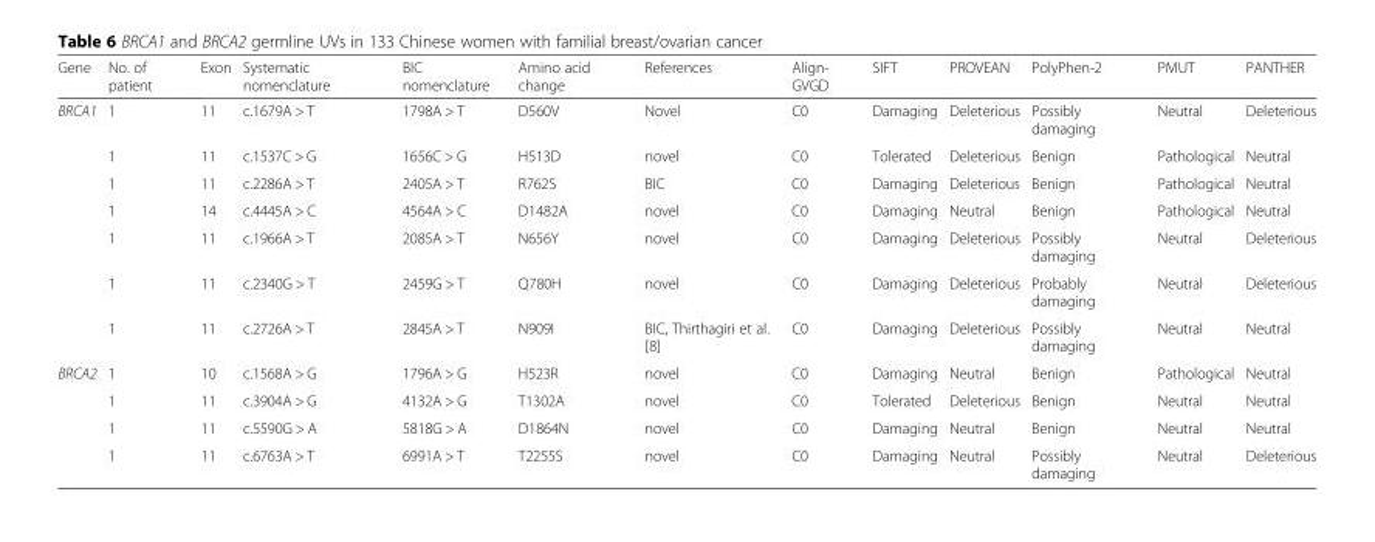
<table><thead><tr><td>Gene</td><td>No. of patient</td><td>Exon</td><td>Systematic nomenclature</td><td>BIC nomenclature</td><td>Amino acid change</td><td>References</td><td>Align- GVGD</td><td>SIFT</td><td>PROVEAN</td><td>PolyPhen-2</td><td>PMUT</td><td>PANTHER</td></tr></thead><tbody><tr><td rowspan="7">BRCA1</td><td>1</td><td>11</td><td>c.1679A &gt; T</td><td>1798A &gt; T</td><td>D560V</td><td>Novel</td><td>C0</td><td>Damaging</td><td>Deleterious</td><td>Possibly damaging</td><td>Neutral</td><td>Deleterious</td></tr><tr><td>1</td><td>11</td><td>c.1537C &gt; G</td><td>1656C &gt; G</td><td>H513D</td><td>novel</td><td>C0</td><td>Tolerated</td><td>Deleterious</td><td>Benign</td><td>Pathological</td><td>Neutral</td></tr><tr><td>1</td><td>11</td><td>c.2286A &gt; T</td><td>2405A &gt; T</td><td>R762S</td><td>BIC</td><td>C0</td><td>Damaging</td><td>Deleterious</td><td>Benign</td><td>Pathological</td><td>Neutral</td></tr><tr><td>1</td><td>14</td><td>c.4445A &gt; C</td><td>4564A &gt; C</td><td>D1482A</td><td>novel</td><td>C0</td><td>Damaging</td><td>Neutral</td><td>Benign</td><td>Pathological</td><td>Neutral</td></tr><tr><td>1</td><td>11</td><td>c.1966A &gt; T</td><td>2085A &gt; T</td><td>N656Y</td><td>novel</td><td>C0</td><td>Damaging</td><td>Deleterious</td><td>Possibly damaging</td><td>Neutral</td><td>Deleterious</td></tr><tr><td>1</td><td>11</td><td>c.2340G &gt; T</td><td>2459G &gt; T</td><td>Q780H</td><td>novel</td><td>C0</td><td>Damaging</td><td>Deleterious</td><td>Probably damaging</td><td>Neutral</td><td>Deleterious</td></tr><tr><td>1</td><td>11</td><td>c.2726A &gt; T</td><td>2845A &gt; T</td><td>N909I</td><td>BIC, Thirthagiri et al. [8]</td><td>C0</td><td>Damaging</td><td>Deleterious</td><td>Possibly damaging</td><td>Neutral</td><td>Neutral</td></tr><tr><td rowspan="4">BRCA2</td><td>1</td><td>10</td><td>c.1568A &gt; G</td><td>1796A &gt; G</td><td>H523R</td><td>novel</td><td>C0</td><td>Damaging</td><td>Neutral</td><td>Benign</td><td>Pathological</td><td>Neutral</td></tr><tr><td>1</td><td>11</td><td>c.3904A &gt; G</td><td>4132A &gt; G</td><td>T1302A</td><td>novel</td><td>C0</td><td>Tolerated</td><td>Deleterious</td><td>Benign</td><td>Neutral</td><td>Neutral</td></tr><tr><td>1</td><td>11</td><td>c.5590G &gt; A</td><td>5818G &gt; A</td><td>D1864N</td><td>novel</td><td>C0</td><td>Damaging</td><td>Neutral</td><td>Benign</td><td>Neutral</td><td>Neutral</td></tr><tr><td>1</td><td>11</td><td>c.6763A &gt; T</td><td>6991A &gt; T</td><td>T2255S</td><td>novel</td><td>C0</td><td>Damaging</td><td>Neutral</td><td>Possibly damaging</td><td>Neutral</td><td>Deleterious</td></tr></tbody></table>